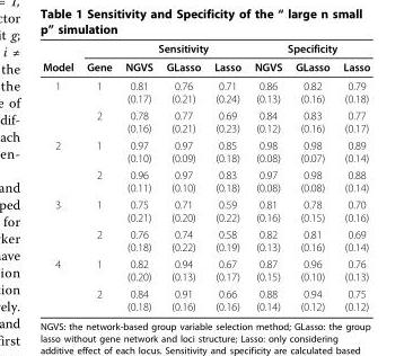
<table><thead><tr><td rowspan="2">Model</td><td rowspan="2">Gene</td><td colspan="3">Sensitivity</td><td colspan="3">Specificity</td></tr><tr><td>NGVS</td><td>GLasso</td><td>Lasso</td><td>NGVS</td><td>GLasso</td><td>Lasso</td></tr></thead><tbody><tr><td rowspan="2">1</td><td>1</td><td>0.81 (0.17)</td><td>0.76 (0.21)</td><td>0.71 (0.24)</td><td>0.86 (0.13)</td><td>0.82 (0.16)</td><td>0.79 (0.18)</td></tr><tr><td>2</td><td>0.78 (0.16)</td><td>0.77 (0.21)</td><td>0.69 (0.23)</td><td>0.84 (0.12)</td><td>0.83 (0.16)</td><td>0.77 (0.17)</td></tr><tr><td rowspan="2">2</td><td>1</td><td>0.97 (0.10)</td><td>0.97 (0.09)</td><td>0.85 (0.18)</td><td>0.98 (0.08)</td><td>0.98 (0.07)</td><td>0.89 (0.14)</td></tr><tr><td>2</td><td>0.96 (0.11)</td><td>0.97 (0.10)</td><td>0.83 (0.18)</td><td>0.97 (0.08)</td><td>0.98 (0.08)</td><td>0.88 (0.14)</td></tr><tr><td rowspan="2">3</td><td>1</td><td>0.75 (0.21)</td><td>0.71 (0.20)</td><td>0.59 (0.22)</td><td>0.81 (0.16)</td><td>0.78 (0.15)</td><td>0.70 (0.16)</td></tr><tr><td>2</td><td>0.76 (0.18)</td><td>0.74 (0.22)</td><td>0.58 (0.19)</td><td>0.82 (0.13)</td><td>0.81 (0.16)</td><td>0.69 (0.14)</td></tr><tr><td rowspan="2">4</td><td>1</td><td>0.82 (0.20)</td><td>0.94 (0.13)</td><td>0.67 (0.17)</td><td>0.87 (0.15)</td><td>0.96 (0.10)</td><td>0.76 (0.13)</td></tr><tr><td>2</td><td>0.84 (0.18)</td><td>0.91 (0.16)</td><td>0.66 (0.16)</td><td>0.88 (0.14)</td><td>0.94 (0.12)</td><td>0.75 (0.12)</td></tr></tbody></table>